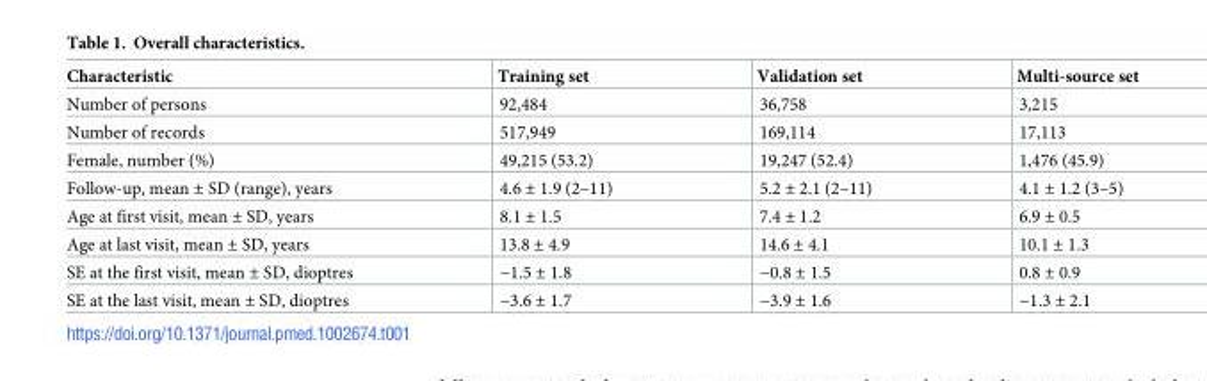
<table><thead><tr><td>Characteristic</td><td>Training set</td><td>Validation set</td><td>Multi-source set</td></tr></thead><tbody><tr><td>Number of persons</td><td>92,484</td><td>36,758</td><td>3,215</td></tr><tr><td>Number of records</td><td>517,949</td><td>169,114</td><td>17,113</td></tr><tr><td>Female, number (%)</td><td>49,215 (53.2)</td><td>19,247 (52.4)</td><td>1,476 (45.9)</td></tr><tr><td>Follow-up, mean ± SD (range), years</td><td>4.6 ± 1.9 (2–11)</td><td>5.2 ± 2.1 (2–11)</td><td>4.1 ± 1.2 (3–5)</td></tr><tr><td>Age at first visit, mean ± SD, years</td><td>8.1 ± 1.5</td><td>7.4 ± 1.2</td><td>6.9 ± 0.5</td></tr><tr><td>Age at last visit, mean ± SD, years</td><td>13.8 ± 4.9</td><td>14.6 ± 4.1</td><td>10.1 ± 1.3</td></tr><tr><td>SE at the first visit, mean ± SD, dioptres</td><td>−1.5 ± 1.8</td><td>−0.8 ± 1.5</td><td>0.8 ± 0.9</td></tr><tr><td>SE at the last visit, mean ± SD, dioptres</td><td>−3.6 ± 1.7</td><td>−3.9 ± 1.6</td><td>−1.3 ± 2.1</td></tr></tbody></table>